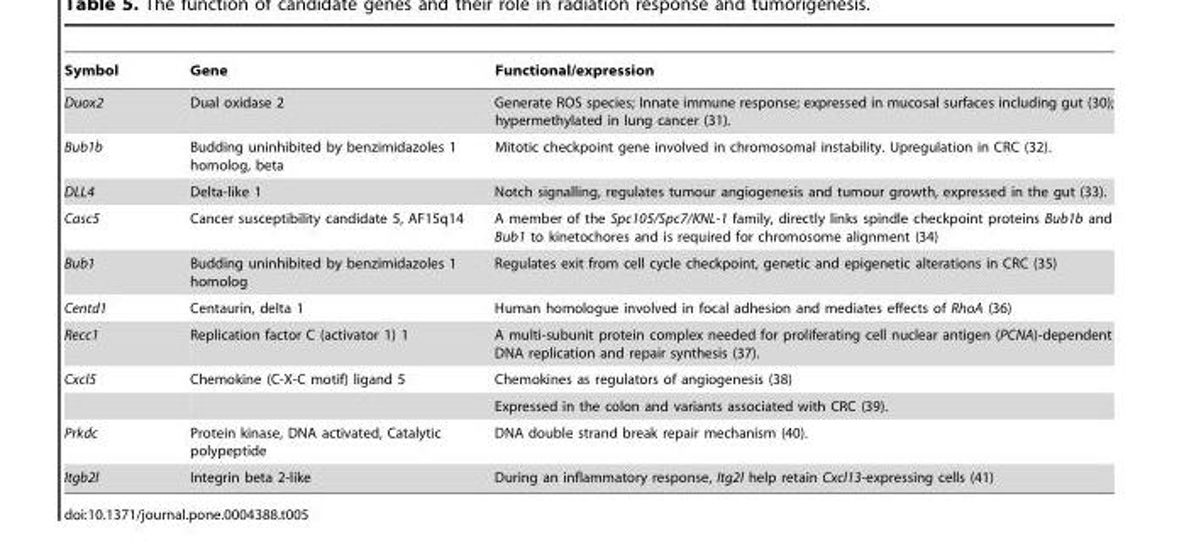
<table><thead><tr><td>Symbol</td><td>Gene</td><td>Functional/expression</td></tr></thead><tbody><tr><td>Duox2</td><td>Dual oxidase 2</td><td>Generate ROS species; Innate immune response; expressed in mucosal surfaces including gut (30); hypermethylated in lung cancer (31).</td></tr><tr><td>Bub1b</td><td>Budding uninhibited by benzimidazoles 1 homolog, beta</td><td>Mitotic checkpoint gene involved in chromosomal instability. Upregulation in CRC (32).</td></tr><tr><td>DLL4</td><td>Delta-like 1</td><td>Notch signalling, regulates tumour angiogenesis and tumour growth, expressed in the gut (33).</td></tr><tr><td>Casc5</td><td>Cancer susceptibility candidate 5, AF15q14</td><td>A member of the Spc105/Spc7/KNL-1 family, directly links spindle checkpoint proteins Bub1b and Bub1 to kinetochores and is required for chromosome alignment (34)</td></tr><tr><td>Bub1</td><td>Budding uninhibited by benzimidazoles 1 homolog</td><td>Regulates exit from cell cycle checkpoint, genetic and epigenetic alterations in CRC (35)</td></tr><tr><td>Centd1</td><td>Centaurin, delta 1</td><td>Human homologue involved in focal adhesion and mediates effects of RhoA (36)</td></tr><tr><td>Recc1</td><td>Replication factor C (activator 1) 1</td><td>A multi-subunit protein complex needed for proliferating cell nuclear antigen (PCNA)-dependent DNA replication and repair synthesis (37).</td></tr><tr><td rowspan="2">Cxcl5</td><td>Chemokine (C-X-C motif) ligand 5</td><td>Chemokines as regulators of angiogenesis (38)</td></tr><tr><td></td><td>Expressed in the colon and variants associated with CRC (39).</td></tr><tr><td>Prkdc</td><td>Protein kinase, DNA activated, Catalytic polypeptide</td><td>DNA double strand break repair mechanism (40).</td></tr><tr><td>Itgb2l</td><td>Integrin beta 2-like</td><td>During an inflammatory response, Itg2l help retain Cxcl13-expressing cells (41)</td></tr></tbody></table>